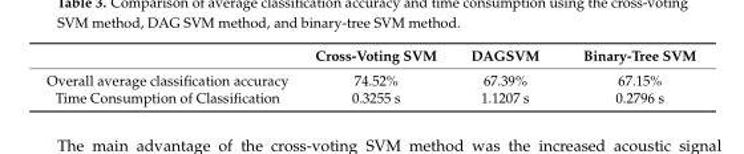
<table><thead><tr><td></td><td>Cross-Voting SVM</td><td>DAGSVM</td><td>Binary-Tree SVM</td></tr></thead><tbody><tr><td>Overall average classification accuracy</td><td>74.52%</td><td>67.39%</td><td>67.15%</td></tr><tr><td>Time Consumption of Classification</td><td>0.3255 s</td><td>1.1207 s</td><td>0.2796 s</td></tr></tbody></table>